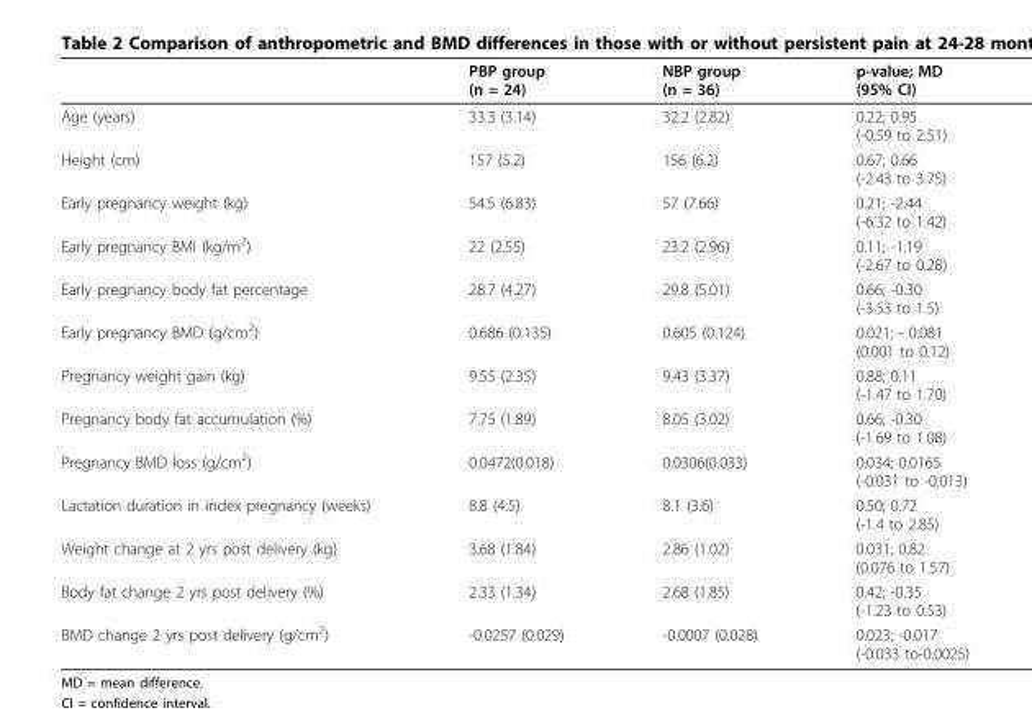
<table><thead><tr><td></td><td>PBP group (n = 24)</td><td>NBP group (n = 36)</td><td>p-value; MD (95% CI)</td></tr></thead><tbody><tr><td>Age (years)</td><td>33.3 (3.14)</td><td>32.2 (2.82)</td><td>0.22; 0.95 (-0.59 to 2.51)</td></tr><tr><td>Height (cm)</td><td>157 (5.2)</td><td>156 (6.2)</td><td>0.67; 0.66 (-2.43 to 3.75)</td></tr><tr><td>Early pregnancy weight (kg)</td><td>54.5 (6.83)</td><td>57 (7.66)</td><td>0.21; -2.44 (-6.32 to 1.42)</td></tr><tr><td>Early pregnancy BMI (kg/m<sup>2</sup>)</td><td>22 (2.55)</td><td>23.2 (2.96)</td><td>0.11; -1.19 (-2.67 to 0.28)</td></tr><tr><td>Early pregnancy body fat percentage</td><td>28.7 (4.27)</td><td>29.8 (5.01)</td><td>0.66; -0.30 (-3.53 to 1.5)</td></tr><tr><td>Early pregnancy BMD (g/cm<sup>2</sup>)</td><td>0.686 (0.135)</td><td>0.605 (0.124)</td><td>0.021; - 0.081 (0.001 to 0.12)</td></tr><tr><td>Pregnancy weight gain (kg)</td><td>9.55 (2.35)</td><td>9.43 (3.37)</td><td>0.88; 0.11 (-1.47 to 1.70)</td></tr><tr><td>Pregnancy body fat accumulation (%)</td><td>7.75 (1.89)</td><td>8.05 (3.02)</td><td>0.66; -0.30 (-1.69 to 1.08)</td></tr><tr><td>Pregnancy BMD loss (g/cm<sup>2</sup>)</td><td>0.0472(0.018)</td><td>0.0306(0.033)</td><td>0.034; 0.0165 (-0.031 to -0.013)</td></tr><tr><td>Lactation duration in index pregnancy (weeks)</td><td>8.8 (4.5)</td><td>8.1 (3.6)</td><td>0.50; 0.72 (-1.4 to 2.85)</td></tr><tr><td>Weight change at 2 yrs post delivery (kg)</td><td>3.68 (1.84)</td><td>2.86 (1.02)</td><td>0.031; 0.82 (0.076 to 1.57)</td></tr><tr><td>Body fat change 2 yrs post delivery (%)</td><td>2.33 (1.34)</td><td>2.68 (1.85)</td><td>0.42; -0.35 (-1.23 to 0.53)</td></tr><tr><td>BMD change 2 yrs post delivery (g/cm<sup>2</sup>)</td><td>-0.0257 (0.029)</td><td>-0.0007 (0.028)</td><td>0.023; -0.017 (-0.033 to-0.0025)</td></tr></tbody></table>